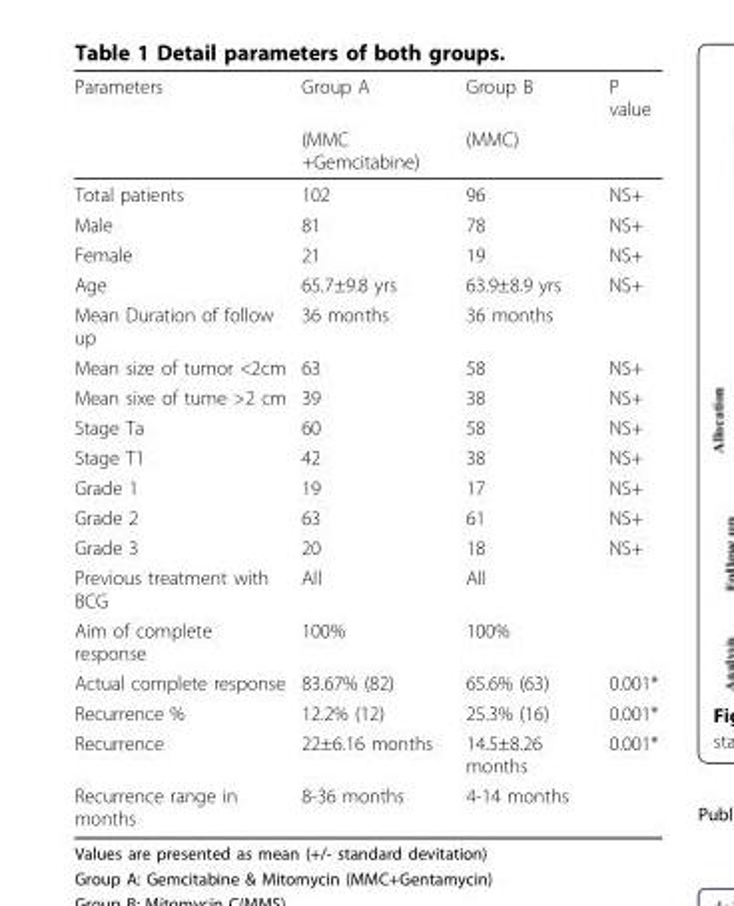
<table><thead><tr><td rowspan="2">Parameters</td><td rowspan="2">Group A (MMC +Gemcitabine)</td><td rowspan="2">Group B (MMC)</td><td rowspan="2">P value</td></tr><tr></tr></thead><tbody><tr><td>Total patients</td><td>102</td><td>96</td><td>NS+</td></tr><tr><td>Male</td><td>81</td><td>78</td><td>NS+</td></tr><tr><td>Female</td><td>21</td><td>19</td><td>NS+</td></tr><tr><td>Age</td><td>65.7±9.8 yrs</td><td>63.9±8.9 yrs</td><td>NS+</td></tr><tr><td>Mean Duration of follow up</td><td>36 months</td><td>36 months</td><td></td></tr><tr><td>Mean size of tumor &lt;2cm</td><td>63</td><td>58</td><td>NS+</td></tr><tr><td>Mean sixe of tume &gt;2 cm</td><td>39</td><td>38</td><td>NS+</td></tr><tr><td>Stage Ta</td><td>60</td><td>58</td><td>NS+</td></tr><tr><td>Stage T1</td><td>42</td><td>38</td><td>NS+</td></tr><tr><td>Grade 1</td><td>19</td><td>17</td><td>NS+</td></tr><tr><td>Grade 2</td><td>63</td><td>61</td><td>NS+</td></tr><tr><td>Grade 3</td><td>20</td><td>18</td><td>NS+</td></tr><tr><td>Previous treatment with BCG</td><td>All</td><td>All</td><td></td></tr><tr><td>Aim of complete response</td><td>100%</td><td>100%</td><td></td></tr><tr><td>Actual complete response</td><td>83.67% (82)</td><td>65.6% (63)</td><td>0.001*</td></tr><tr><td>Recurrence %</td><td>12.2% (12)</td><td>25.3% (16)</td><td>0.001*</td></tr><tr><td>Recurrence</td><td>22±6.16 months</td><td>14.5±8.26 months</td><td>0.001*</td></tr><tr><td>Recurrence range in months</td><td>8-36 months</td><td>4-14 months</td><td></td></tr></tbody></table>